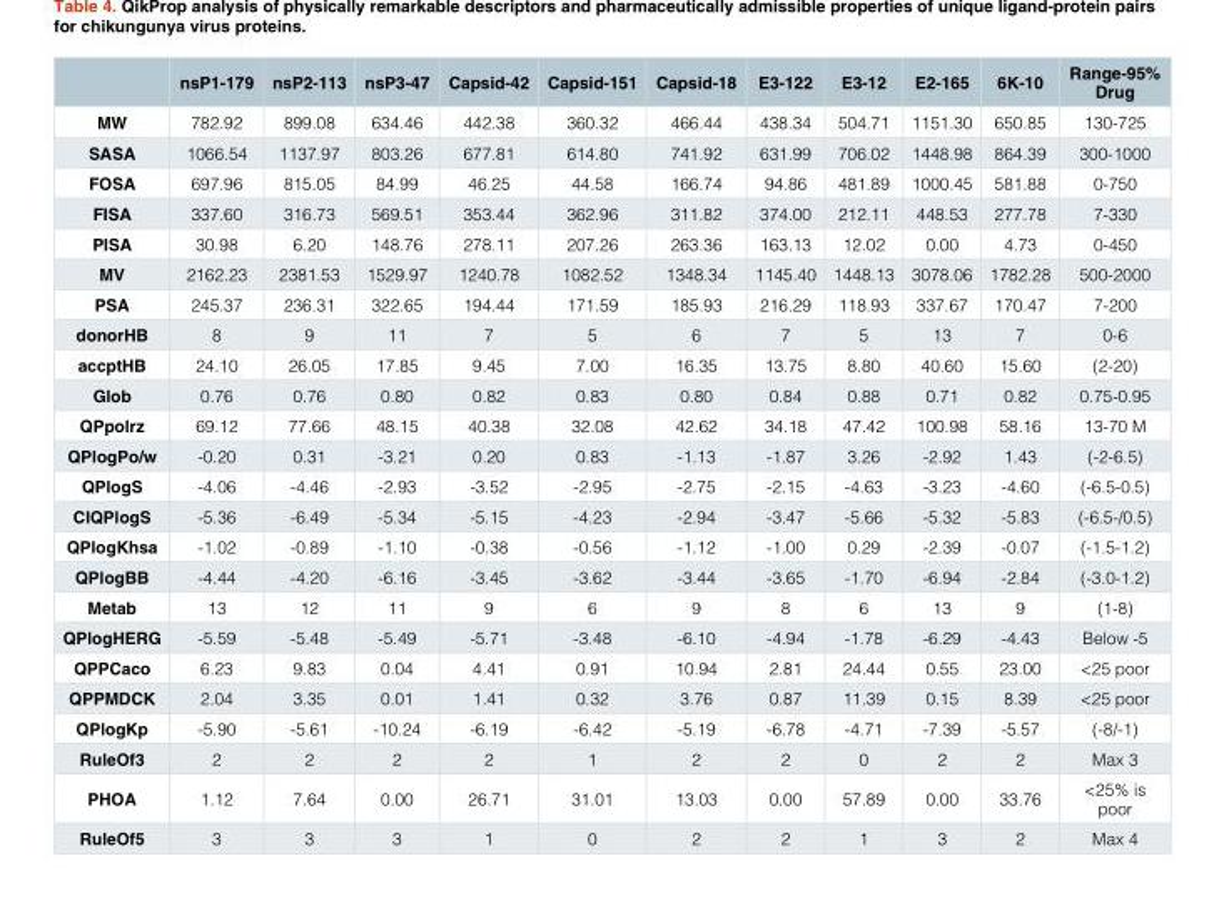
<table><thead><tr><td></td><td>nsP1-179</td><td>nsP2-113</td><td>nsP3-47</td><td>Capsid-42</td><td>Capsid-151</td><td>Capsid-18</td><td>E3-122</td><td>E3-12</td><td>E2-165</td><td>6K-10</td><td>Range-95% Drug</td></tr></thead><tbody><tr><td>MW</td><td>782.92</td><td>899.08</td><td>634.46</td><td>442.38</td><td>360.32</td><td>466.44</td><td>438.34</td><td>504.71</td><td>1151.30</td><td>650.85</td><td>130-725</td></tr><tr><td>SASA</td><td>1066.54</td><td>1137.97</td><td>803.26</td><td>677.81</td><td>614.80</td><td>741.92</td><td>631.99</td><td>706.02</td><td>1448.98</td><td>864.39</td><td>300-1000</td></tr><tr><td>FOSA</td><td>697.96</td><td>815.05</td><td>84.99</td><td>46.25</td><td>44.58</td><td>166.74</td><td>94.86</td><td>481.89</td><td>1000.45</td><td>581.88</td><td>0-750</td></tr><tr><td>FISA</td><td>337.60</td><td>316.73</td><td>569.51</td><td>353.44</td><td>362.96</td><td>311.82</td><td>374.00</td><td>212.11</td><td>448.53</td><td>277.78</td><td>7-330</td></tr><tr><td>PISA</td><td>30.98</td><td>6.20</td><td>148.76</td><td>278.11</td><td>207.26</td><td>263.36</td><td>163.13</td><td>12.02</td><td>0.00</td><td>4.73</td><td>0-450</td></tr><tr><td>MV</td><td>2162.23</td><td>2381.53</td><td>1529.97</td><td>1240.78</td><td>1082.52</td><td>1348.34</td><td>1145.40</td><td>1448.13</td><td>3078.06</td><td>1782.28</td><td>500-2000</td></tr><tr><td>PSA</td><td>245.37</td><td>236.31</td><td>322.65</td><td>194.44</td><td>171.59</td><td>185.93</td><td>216.29</td><td>118.93</td><td>337.67</td><td>170.47</td><td>7-200</td></tr><tr><td>donorHB</td><td>8</td><td>9</td><td>11</td><td>7</td><td>5</td><td>6</td><td>7</td><td>5</td><td>13</td><td>7</td><td>0-6</td></tr><tr><td>accptHB</td><td>24.10</td><td>26.05</td><td>17.85</td><td>9.45</td><td>7.00</td><td>16.35</td><td>13.75</td><td>8.80</td><td>40.60</td><td>15.60</td><td>(2-20)</td></tr><tr><td>Glob</td><td>0.76</td><td>0.76</td><td>0.80</td><td>0.82</td><td>0.83</td><td>0.80</td><td>0.84</td><td>0.88</td><td>0.71</td><td>0.82</td><td>0.75-0.95</td></tr><tr><td>QPpolrz</td><td>69.12</td><td>77.66</td><td>48.15</td><td>40.38</td><td>32.08</td><td>42.62</td><td>34.18</td><td>47.42</td><td>100.98</td><td>58.16</td><td>13-70 M</td></tr><tr><td>QPlogPo/w</td><td>-0.20</td><td>0.31</td><td>-3.21</td><td>0.20</td><td>0.83</td><td>-1.13</td><td>-1.87</td><td>3.26</td><td>-2.92</td><td>1.43</td><td>(-2-6.5)</td></tr><tr><td>QPlogS</td><td>-4.06</td><td>-4.46</td><td>-2.93</td><td>-3.52</td><td>-2.95</td><td>-2.75</td><td>-2.15</td><td>-4.63</td><td>-3.23</td><td>-4.60</td><td>(-6.5-0.5)</td></tr><tr><td>CIQPlogS</td><td>-5.36</td><td>-6.49</td><td>-5.34</td><td>-5.15</td><td>-4.23</td><td>-2.94</td><td>-3.47</td><td>-5.66</td><td>-5.32</td><td>-5.83</td><td>(-6.5-/0.5)</td></tr><tr><td>QPlogKhsa</td><td>-1.02</td><td>-0.89</td><td>-1.10</td><td>-0.38</td><td>-0.56</td><td>-1.12</td><td>-1.00</td><td>0.29</td><td>-2.39</td><td>-0.07</td><td>(-1.5-1.2)</td></tr><tr><td>QPlogBB</td><td>-4.44</td><td>-4.20</td><td>-6.16</td><td>-3.45</td><td>-3.62</td><td>-3.44</td><td>-3.65</td><td>-1.70</td><td>-6.94</td><td>-2.84</td><td>(-3.0-1.2)</td></tr><tr><td>Metab</td><td>13</td><td>12</td><td>11</td><td>9</td><td>6</td><td>9</td><td>8</td><td>6</td><td>13</td><td>9</td><td>(1-8)</td></tr><tr><td>QPlogHERG</td><td>-5.59</td><td>-5.48</td><td>-5.49</td><td>-5.71</td><td>-3.48</td><td>-6.10</td><td>-4.94</td><td>-1.78</td><td>-6.29</td><td>-4.43</td><td>Below -5</td></tr><tr><td>QPPCaco</td><td>6.23</td><td>9.83</td><td>0.04</td><td>4.41</td><td>0.91</td><td>10.94</td><td>2.81</td><td>24.44</td><td>0.55</td><td>23.00</td><td>&lt;25 poor</td></tr><tr><td>QPPMDCK</td><td>2.04</td><td>3.35</td><td>0.01</td><td>1.41</td><td>0.32</td><td>3.76</td><td>0.87</td><td>11.39</td><td>0.15</td><td>8.39</td><td>&lt;25 poor</td></tr><tr><td>QPlogKp</td><td>-5.90</td><td>-5.61</td><td>-10.24</td><td>-6.19</td><td>-6.42</td><td>-5.19</td><td>-6.78</td><td>-4.71</td><td>-7.39</td><td>-5.57</td><td>(-8/-1)</td></tr><tr><td>RuleOf3</td><td>2</td><td>2</td><td>2</td><td>2</td><td>1</td><td>2</td><td>2</td><td>0</td><td>2</td><td>2</td><td>Max 3</td></tr><tr><td>PHOA</td><td>1.12</td><td>7.64</td><td>0.00</td><td>26.71</td><td>31.01</td><td>13.03</td><td>0.00</td><td>57.89</td><td>0.00</td><td>33.76</td><td>&lt;25% is poor</td></tr><tr><td>RuleOf5</td><td>3</td><td>3</td><td>3</td><td>1</td><td>0</td><td>2</td><td>2</td><td>1</td><td>3</td><td>2</td><td>Max 4</td></tr></tbody></table>